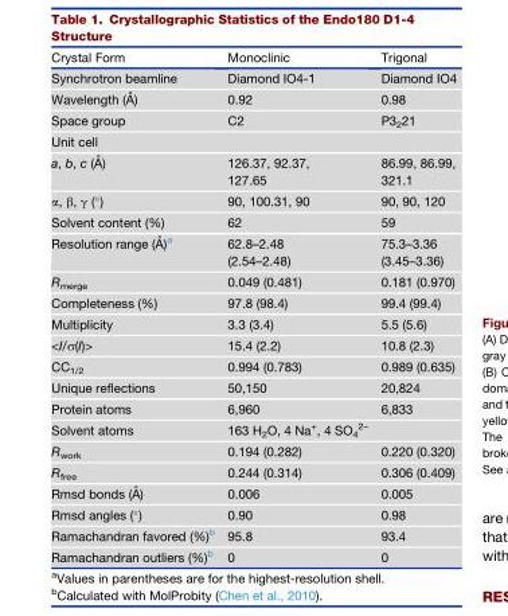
<table><thead><tr><td>Crystal Form</td><td>Monoclinic</td><td>Trigonal</td></tr></thead><tbody><tr><td>Synchrotron beamline</td><td>Diamond IO4-1</td><td>Diamond IO4</td></tr><tr><td>Wavelength (A˚ )</td><td>0.92</td><td>0.98</td></tr><tr><td>Space group</td><td>C2</td><td>P3<sub>2</sub>21</td></tr><tr><td colspan="3">Unit cell</td></tr><tr><td>a, b, c (A˚ )</td><td>126.37, 92.37, 127.65</td><td>86.99, 86.99, 321.1</td></tr><tr><td>α, β, γ (°)</td><td>90, 100.31, 90</td><td>90, 90, 120</td></tr><tr><td>Solvent content (%)</td><td>62</td><td>59</td></tr><tr><td>Resolution range (A˚ )a</td><td>62.8–2.48 (2.54–2.48)</td><td>75.3–3.36 (3.45–3.36)</td></tr><tr><td>R<sub>merge</sub></td><td>0.049 (0.481)</td><td>0.181 (0.970)</td></tr><tr><td>Completeness (%)</td><td>97.8 (98.4)</td><td>99.4 (99.4)</td></tr><tr><td>Multiplicity</td><td>3.3 (3.4)</td><td>5.5 (5.6)</td></tr><tr><td>&lt;I/σ(I)&gt;</td><td>15.4 (2.2)</td><td>10.8 (2.3)</td></tr><tr><td>CC<sub>1/2</sub></td><td>0.994 (0.783)</td><td>0.989 (0.635)</td></tr><tr><td>Unique reflections</td><td>50,150</td><td>20,824</td></tr><tr><td>Protein atoms</td><td>6,960</td><td>6,833</td></tr><tr><td>Solvent atoms</td><td>163 H<sub>2</sub>O, 4 Na<sup>+</sup>, 4 SO<sub>4</sub> <sup>2–</sup></td><td></td></tr><tr><td>R<sub>work</sub></td><td>0.194 (0.282)</td><td>0.220 (0.320)</td></tr><tr><td>R<sub>free</sub></td><td>0.244 (0.314)</td><td>0.306 (0.409)</td></tr><tr><td>Rmsd bonds (A˚ )</td><td>0.006</td><td>0.005</td></tr><tr><td>Rmsd angles (°)</td><td>0.90</td><td>0.98</td></tr><tr><td>Ramachandran favored (%)<sup>b</sup></td><td>95.8</td><td>93.4</td></tr><tr><td>Ramachandran outliers (%)<sup>b</sup></td><td>0</td><td>0</td></tr></tbody></table>